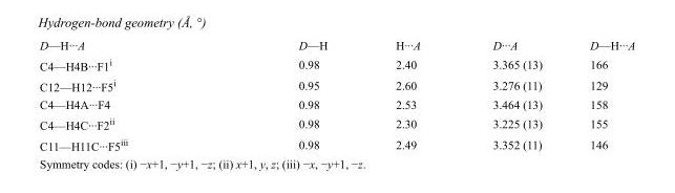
<table><tbody><tr><td>D—H···A</td><td>D—H</td><td>H···A</td><td>D···A</td><td>D—H···A</td></tr><tr><td>C4—H4B···F1<sup>i</sup></td><td>0.98</td><td>2.40</td><td>3.365 (13)</td><td>166</td></tr><tr><td>C12—H12···F5<sup>i</sup></td><td>0.95</td><td>2.60</td><td>3.276 (11)</td><td>129</td></tr><tr><td>C4—H4A···F4</td><td>0.98</td><td>2.53</td><td>3.464 (13)</td><td>158</td></tr><tr><td>C4—H4C···F2<sup>ii</sup></td><td>0.98</td><td>2.30</td><td>3.225 (13)</td><td>155</td></tr><tr><td>C11—H11C···F5<sup>iii</sup></td><td>0.98</td><td>2.49</td><td>3.352 (11)</td><td>146</td></tr></tbody></table>